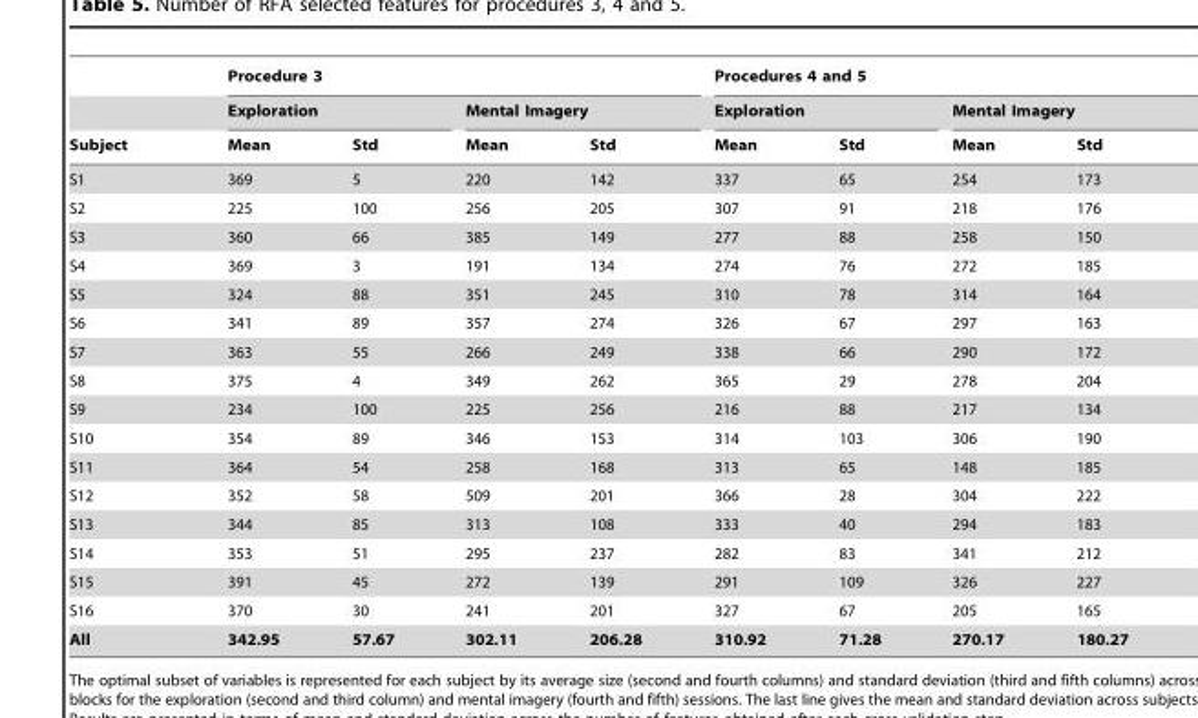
<table><thead><tr><td rowspan="3">Subject</td><td colspan="4">Procedure 3</td><td colspan="4">Procedures 4 and 5</td></tr><tr><td colspan="2">Exploration</td><td colspan="2">Mental Imagery</td><td colspan="2">Exploration</td><td colspan="2">Mental Imagery</td></tr><tr><td>Mean</td><td>Std</td><td>Mean</td><td>Std</td><td>Mean</td><td>Std</td><td>Mean</td><td>Std</td></tr></thead><tbody><tr><td>S1</td><td>369</td><td>5</td><td>220</td><td>142</td><td>337</td><td>65</td><td>254</td><td>173</td></tr><tr><td>S2</td><td>225</td><td>100</td><td>256</td><td>205</td><td>307</td><td>91</td><td>218</td><td>176</td></tr><tr><td>S3</td><td>360</td><td>66</td><td>385</td><td>149</td><td>277</td><td>88</td><td>258</td><td>150</td></tr><tr><td>S4</td><td>369</td><td>3</td><td>191</td><td>134</td><td>274</td><td>76</td><td>272</td><td>185</td></tr><tr><td>S5</td><td>324</td><td>88</td><td>351</td><td>245</td><td>310</td><td>78</td><td>314</td><td>164</td></tr><tr><td>S6</td><td>341</td><td>89</td><td>357</td><td>274</td><td>326</td><td>67</td><td>297</td><td>163</td></tr><tr><td>S7</td><td>363</td><td>55</td><td>266</td><td>249</td><td>338</td><td>66</td><td>290</td><td>172</td></tr><tr><td>S8</td><td>375</td><td>4</td><td>349</td><td>262</td><td>365</td><td>29</td><td>278</td><td>204</td></tr><tr><td>S9</td><td>234</td><td>100</td><td>225</td><td>256</td><td>216</td><td>88</td><td>217</td><td>134</td></tr><tr><td>S10</td><td>354</td><td>89</td><td>346</td><td>153</td><td>314</td><td>103</td><td>306</td><td>190</td></tr><tr><td>S11</td><td>364</td><td>54</td><td>258</td><td>168</td><td>313</td><td>65</td><td>148</td><td>185</td></tr><tr><td>S12</td><td>352</td><td>58</td><td>509</td><td>201</td><td>366</td><td>28</td><td>304</td><td>222</td></tr><tr><td>S13</td><td>344</td><td>85</td><td>313</td><td>108</td><td>333</td><td>40</td><td>294</td><td>183</td></tr><tr><td>S14</td><td>353</td><td>51</td><td>295</td><td>237</td><td>282</td><td>83</td><td>341</td><td>212</td></tr><tr><td>S15</td><td>391</td><td>45</td><td>272</td><td>139</td><td>291</td><td>109</td><td>326</td><td>227</td></tr><tr><td>S16</td><td>370</td><td>30</td><td>241</td><td>201</td><td>327</td><td>67</td><td>205</td><td>165</td></tr><tr><td>All</td><td>342.95</td><td>57.67</td><td>302.11</td><td>206.28</td><td>310.92</td><td>71.28</td><td>270.17</td><td>180.27</td></tr></tbody></table>